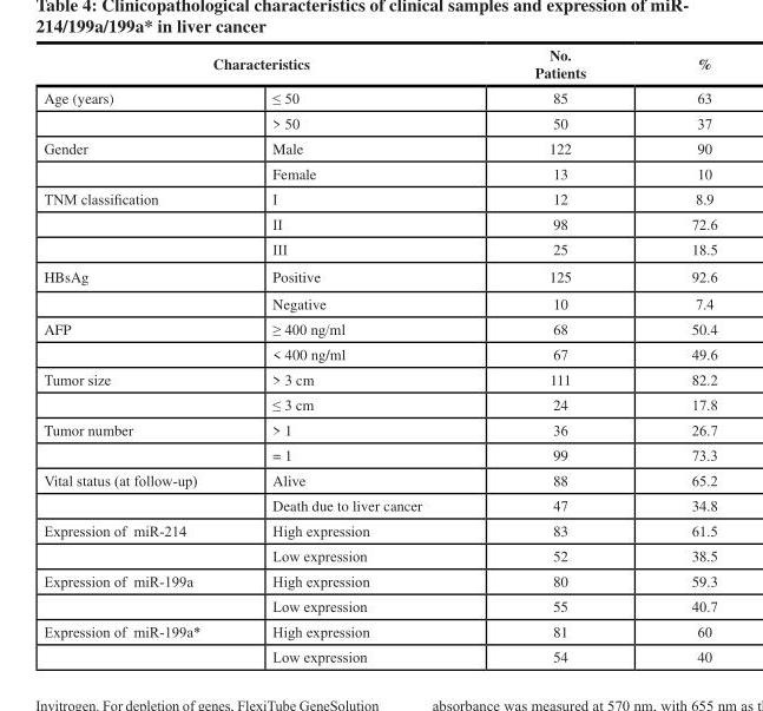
<table><thead><tr><td colspan="2">Characteristics</td><td rowspan="2">No. Patients 85</td><td rowspan="2">% 63</td></tr><tr><td>Age (years)</td><td>≤ 50</td></tr></thead><tbody><tr><td></td><td>&gt; 50</td><td>50</td><td>37</td></tr><tr><td rowspan="2">Gender</td><td>Male</td><td>122</td><td>90</td></tr><tr><td>Female</td><td>13</td><td>10</td></tr><tr><td rowspan="3">TNM classification</td><td>I</td><td>12</td><td>8.9</td></tr><tr><td>II</td><td>98</td><td>72.6</td></tr><tr><td>III</td><td>25</td><td>18.5</td></tr><tr><td rowspan="2">HBsAg</td><td>Positive</td><td>125</td><td>92.6</td></tr><tr><td>Negative</td><td>10</td><td>7.4</td></tr><tr><td rowspan="2">AFP</td><td>≥ 400 ng/ml</td><td>68</td><td>50.4</td></tr><tr><td>&lt; 400 ng/ml</td><td>67</td><td>49.6</td></tr><tr><td rowspan="2">Tumor size</td><td>&gt; 3 cm</td><td>111</td><td>82.2</td></tr><tr><td>≤ 3 cm</td><td>24</td><td>17.8</td></tr><tr><td rowspan="2">Tumor number</td><td>&gt; 1</td><td>36</td><td>26.7</td></tr><tr><td>= 1</td><td>99</td><td>73.3</td></tr><tr><td rowspan="2">Vital status (at follow-up)</td><td>Alive</td><td>88</td><td>65.2</td></tr><tr><td>Death due to liver cancer</td><td>47</td><td>34.8</td></tr><tr><td rowspan="2">Expression of miR-214</td><td>High expression</td><td>83</td><td>61.5</td></tr><tr><td>Low expression</td><td>52</td><td>38.5</td></tr><tr><td rowspan="2">Expression of miR-199a</td><td>High expression</td><td>80</td><td>59.3</td></tr><tr><td>Low expression</td><td>55</td><td>40.7</td></tr><tr><td rowspan="2">Expression of miR-199a*</td><td>High expression</td><td>81</td><td>60</td></tr><tr><td>Low expression</td><td>54</td><td>40</td></tr></tbody></table>